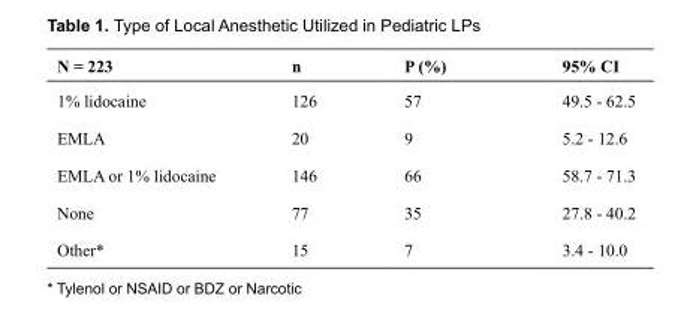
<table><thead><tr><td>N = 223</td><td>n</td><td>P (%)</td><td>95% CI</td></tr></thead><tbody><tr><td>1% lidocaine</td><td>126</td><td>57</td><td>49.5 - 62.5</td></tr><tr><td>EMLA</td><td>20</td><td>9</td><td>5.2 - 12.6</td></tr><tr><td>EMLA or 1% lidocaine</td><td>146</td><td>66</td><td>58.7 - 71.3</td></tr><tr><td>None</td><td>77</td><td>35</td><td>27.8 - 40.2</td></tr><tr><td>Other*</td><td>15</td><td>7</td><td>3.4 - 10.0</td></tr></tbody></table>